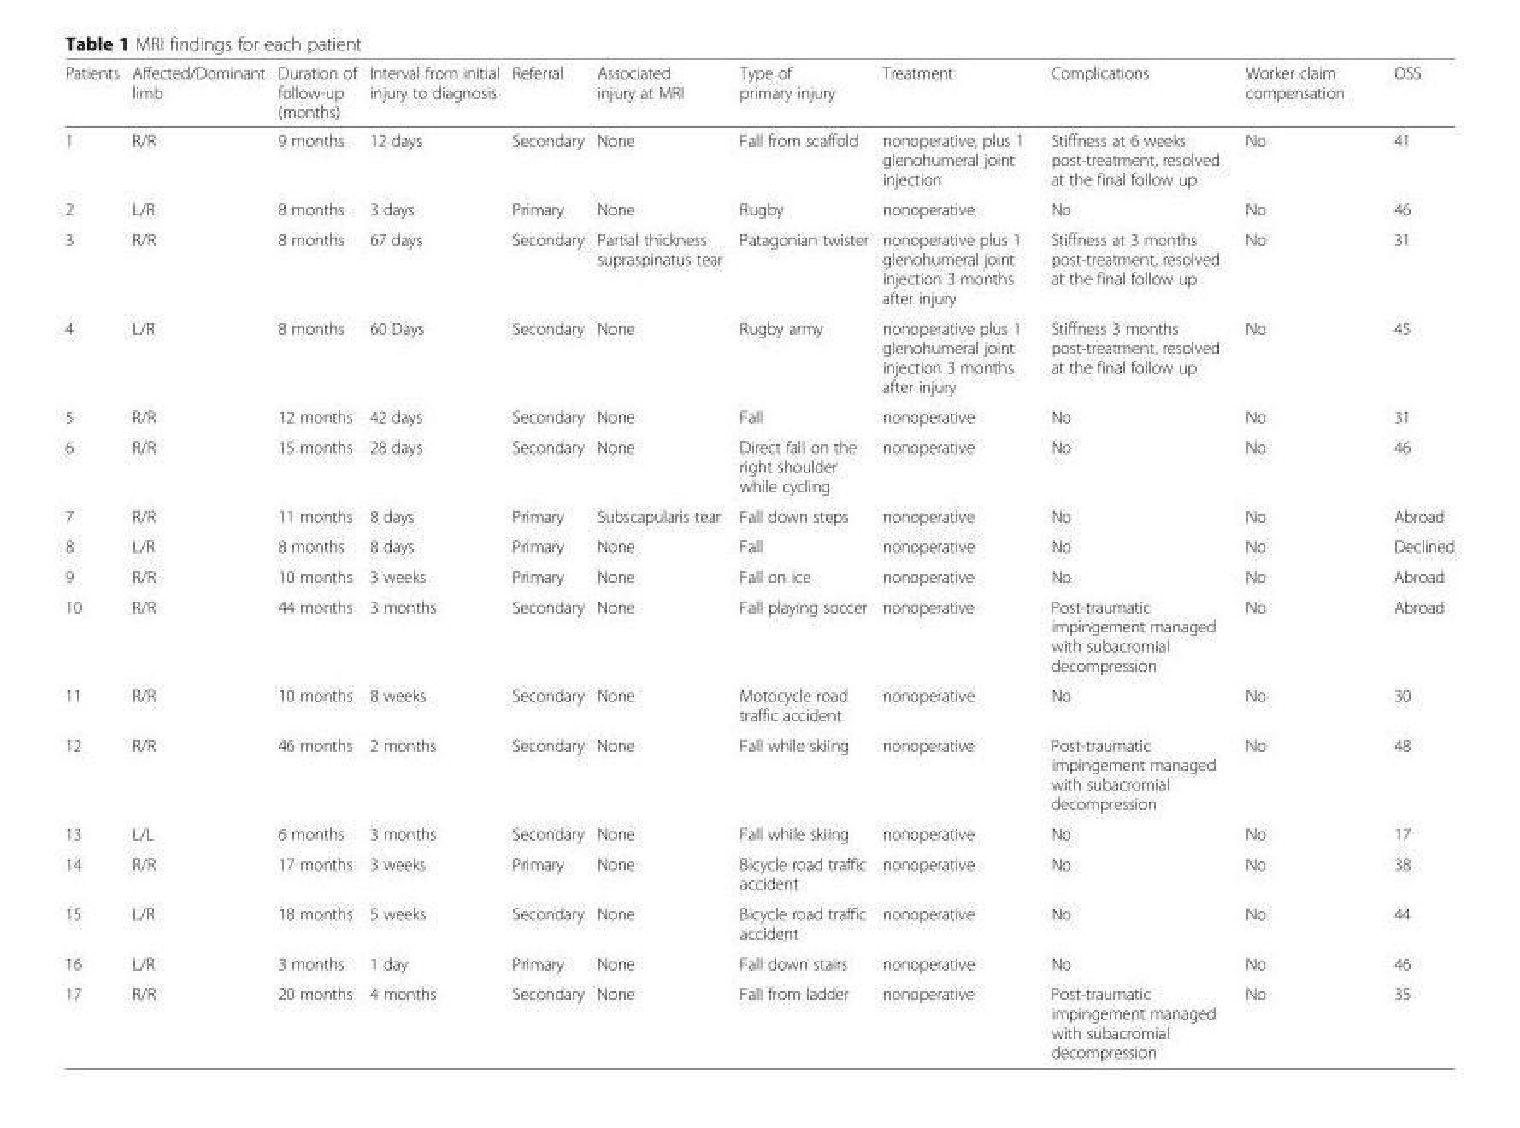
<table><thead><tr><td>Patients</td><td>Affected/Dominant limb</td><td>Duration of follow-up (months)</td><td>Interval from initial injury to diagnosis</td><td>Referral</td><td>Associated injury at MRI</td><td>Type of primary injury</td><td>Treatment</td><td>Complications</td><td>Worker claim compensation</td><td>OSS</td></tr></thead><tbody><tr><td>1</td><td>R/R</td><td>9 months</td><td>12 days</td><td>Secondary</td><td>None</td><td>Fall from scaffold</td><td>nonoperative, plus 1 glenohumeral joint injection</td><td>Stiffness at 6 weeks post-treatment, resolved at the final follow up</td><td>No</td><td>41</td></tr><tr><td>2</td><td>L/R</td><td>8 months</td><td>3 days</td><td>Primary</td><td>None</td><td>Rugby</td><td>nonoperative</td><td>No</td><td>No</td><td>46</td></tr><tr><td>3</td><td>R/R</td><td>8 months</td><td>67 days</td><td>Secondary</td><td>Partial thickness supraspinatus tear</td><td>Patagonian twister</td><td>nonoperative plus 1 glenohumeral joint injection 3 months after injury</td><td>Stiffness at 3 months post-treatment, resolved at the final follow up</td><td>No</td><td>31</td></tr><tr><td>4</td><td>L/R</td><td>8 months</td><td>60 Days</td><td>Secondary</td><td>None</td><td>Rugby army</td><td>nonoperative plus 1 glenohumeral joint injection 3 months after injury</td><td>Stiffness 3 months post-treatment, resolved at the final follow up</td><td>No</td><td>45</td></tr><tr><td>5</td><td>R/R</td><td>12 months</td><td>42 days</td><td>Secondary</td><td>None</td><td>Fall</td><td>nonoperative</td><td>No</td><td>No</td><td>31</td></tr><tr><td>6</td><td>R/R</td><td>15 months</td><td>28 days</td><td>Secondary</td><td>None</td><td>Direct fall on the right shoulder while cycling</td><td>nonoperative</td><td>No</td><td>No</td><td>46</td></tr><tr><td>7</td><td>R/R</td><td>11 months</td><td>8 days</td><td>Primary</td><td>Subscapularis tear</td><td>Fall down steps</td><td>nonoperative</td><td>No</td><td>No</td><td>Abroad</td></tr><tr><td>8</td><td>L/R</td><td>8 months</td><td>8 days</td><td>Primary</td><td>None</td><td>Fall</td><td>nonoperative</td><td>No</td><td>No</td><td>Declined</td></tr><tr><td>9</td><td>R/R</td><td>10 months</td><td>3 weeks</td><td>Primary</td><td>None</td><td>Fall on ice</td><td>nonoperative</td><td>No</td><td>No</td><td>Abroad</td></tr><tr><td>10</td><td>R/R</td><td>44 months</td><td>3 months</td><td>Secondary</td><td>None</td><td>Fall playing soccer</td><td>nonoperative</td><td>Post-traumatic impingement managed with subacromial decompression</td><td>No</td><td>Abroad</td></tr><tr><td>11</td><td>R/R</td><td>10 months</td><td>8 weeks</td><td>Secondary</td><td>None</td><td>Motocycle road traffic accident</td><td>nonoperative</td><td>No</td><td>No</td><td>30</td></tr><tr><td>12</td><td>R/R</td><td>46 months</td><td>2 months</td><td>Secondary</td><td>None</td><td>Fall while skiing</td><td>nonoperative</td><td>Post-traumatic impingement managed with subacromial decompression</td><td>No</td><td>48</td></tr><tr><td>13</td><td>L/L</td><td>6 months</td><td>3 months</td><td>Secondary</td><td>None</td><td>Fall while skiing</td><td>nonoperative</td><td>No</td><td>No</td><td>17</td></tr><tr><td>14</td><td>R/R</td><td>17 months</td><td>3 weeks</td><td>Primary</td><td>None</td><td>Bicycle road traffic accident</td><td>nonoperative</td><td>No</td><td>No</td><td>38</td></tr><tr><td>15</td><td>L/R</td><td>18 months</td><td>5 weeks</td><td>Secondary</td><td>None</td><td>Bicycle road traffic accident</td><td>nonoperative</td><td>No</td><td>No</td><td>44</td></tr><tr><td>16</td><td>L/R</td><td>3 months</td><td>1 day</td><td>Primary</td><td>None</td><td>Fall down stairs</td><td>nonoperative</td><td>No</td><td>No</td><td>46</td></tr><tr><td>17</td><td>R/R</td><td>20 months</td><td>4 months</td><td>Secondary</td><td>None</td><td>Fall from ladder</td><td>nonoperative</td><td>Post-traumatic impingement managed with subacromial decompression</td><td>No</td><td>35</td></tr></tbody></table>